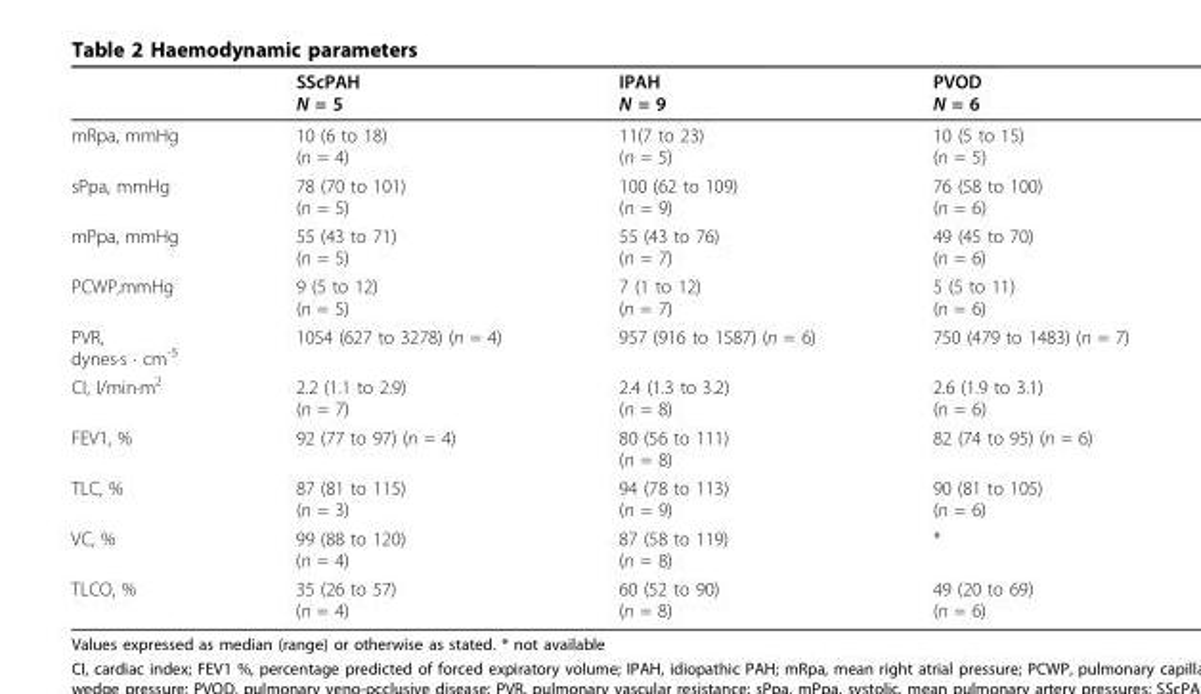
<table><thead><tr><td></td><td>SScPAH N = 5</td><td>IPAH N = 9</td><td>PVOD N = 6</td></tr></thead><tbody><tr><td>mRpa, mmHg</td><td>10 (6 to 18) (n = 4)</td><td>11(7 to 23) (n = 5)</td><td>10 (5 to 15) (n = 5)</td></tr><tr><td>sPpa, mmHg</td><td>78 (70 to 101) (n = 5)</td><td>100 (62 to 109) (n = 9)</td><td>76 (58 to 100) (n = 6)</td></tr><tr><td>mPpa, mmHg</td><td>55 (43 to 71) (n = 5)</td><td>55 (43 to 76) (n = 7)</td><td>49 (45 to 70) (n = 6)</td></tr><tr><td>PCWP,mmHg</td><td>9 (5 to 12) (n = 5)</td><td>7 (1 to 12) (n = 7)</td><td>5 (5 to 11) (n = 6)</td></tr><tr><td>PVR, dynes·s · cm<sup>-5</sup></td><td>1054 (627 to 3278) (n = 4)</td><td>957 (916 to 1587) (n = 6)</td><td>750 (479 to 1483) (n = 7)</td></tr><tr><td>CI, l/min·m<sup>2</sup></td><td>2.2 (1.1 to 2.9) (n = 7)</td><td>2.4 (1.3 to 3.2) (n = 8)</td><td>2.6 (1.9 to 3.1) (n = 6)</td></tr><tr><td>FEV1, %</td><td>92 (77 to 97) (n = 4)</td><td>80 (56 to 111) (n = 8)</td><td>82 (74 to 95) (n = 6)</td></tr><tr><td>TLC, %</td><td>87 (81 to 115) (n = 3)</td><td>94 (78 to 113) (n = 9)</td><td>90 (81 to 105) (n = 6)</td></tr><tr><td>VC, %</td><td>99 (88 to 120) (n = 4)</td><td>87 (58 to 119) (n = 8)</td><td>*</td></tr><tr><td>TLCO, %</td><td>35 (26 to 57) (n = 4)</td><td>60 (52 to 90) (n = 8)</td><td>49 (20 to 69) (n = 6)</td></tr></tbody></table>